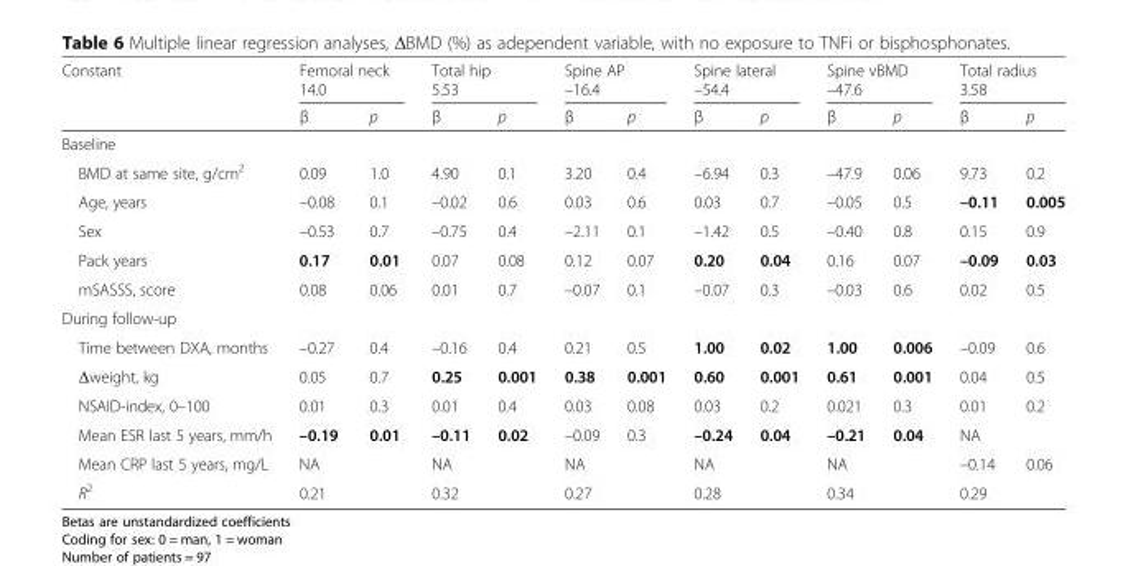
<table><thead><tr><td rowspan="3">Constant</td><td rowspan="2" colspan="2">Femoral neck 14.0</td><td rowspan="2" colspan="2">Total hip 5.53</td><td rowspan="2" colspan="2">Spine AP –16.4</td><td rowspan="2" colspan="2">Spine lateral –54.4</td><td rowspan="2" colspan="2">Spine vBMD –47.6</td><td rowspan="2" colspan="2">Total radius 3.58</td></tr><tr></tr><tr><td>β</td><td>p</td><td>β</td><td>p</td><td>β</td><td>p</td><td>β</td><td>p</td><td>β</td><td>p</td><td>β</td><td>p</td></tr></thead><tbody><tr><td colspan="13">Baseline</td></tr><tr><td>BMD at same site, g/cm<sup>2</sup></td><td>0.09</td><td>1.0</td><td>4.90</td><td>0.1</td><td>3.20</td><td>0.4</td><td>–6.94</td><td>0.3</td><td>–47.9</td><td>0.06</td><td>9.73</td><td>0.2</td></tr><tr><td>Age, years</td><td>–0.08</td><td>0.1</td><td>–0.02</td><td>0.6</td><td>0.03</td><td>0.6</td><td>0.03</td><td>0.7</td><td>–0.05</td><td>0.5</td><td>–0.11</td><td>0.005</td></tr><tr><td>Sex</td><td>–0.53</td><td>0.7</td><td>–0.75</td><td>0.4</td><td>–2.11</td><td>0.1</td><td>–1.42</td><td>0.5</td><td>–0.40</td><td>0.8</td><td>0.15</td><td>0.9</td></tr><tr><td>Pack years</td><td>0.17</td><td>0.01</td><td>0.07</td><td>0.08</td><td>0.12</td><td>0.07</td><td>0.20</td><td>0.04</td><td>0.16</td><td>0.07</td><td>–0.09</td><td>0.03</td></tr><tr><td>mSASSS, score</td><td>0.08</td><td>0.06</td><td>0.01</td><td>0.7</td><td>–0.07</td><td>0.1</td><td>–0.07</td><td>0.3</td><td>–0.03</td><td>0.6</td><td>0.02</td><td>0.5</td></tr><tr><td colspan="13">During follow-up</td></tr><tr><td>Time between DXA, months</td><td>–0.27</td><td>0.4</td><td>–0.16</td><td>0.4</td><td>0.21</td><td>0.5</td><td>1.00</td><td>0.02</td><td>1.00</td><td>0.006</td><td>–0.09</td><td>0.6</td></tr><tr><td>Δweight, kg</td><td>0.05</td><td>0.7</td><td>0.25</td><td>0.001</td><td>0.38</td><td>0.001</td><td>0.60</td><td>0.001</td><td>0.61</td><td>0.001</td><td>0.04</td><td>0.5</td></tr><tr><td>NSAID-index, 0–100</td><td>0.01</td><td>0.3</td><td>0.01</td><td>0.4</td><td>0.03</td><td>0.08</td><td>0.03</td><td>0.2</td><td>0.021</td><td>0.3</td><td>0.01</td><td>0.2</td></tr><tr><td>Mean ESR last 5 years, mm/h</td><td>–0.19</td><td>0.01</td><td>–0.11</td><td>0.02</td><td>–0.09</td><td>0.3</td><td>–0.24</td><td>0.04</td><td>–0.21</td><td>0.04</td><td>NA</td><td></td></tr><tr><td>Mean CRP last 5 years, mg/L</td><td>NA</td><td></td><td>NA</td><td></td><td>NA</td><td></td><td>NA</td><td></td><td>NA</td><td></td><td>–0.14</td><td>0.06</td></tr><tr><td>R<sup>2</sup></td><td>0.21</td><td></td><td>0.32</td><td></td><td>0.27</td><td></td><td>0.28</td><td></td><td>0.34</td><td></td><td>0.29</td><td></td></tr></tbody></table>